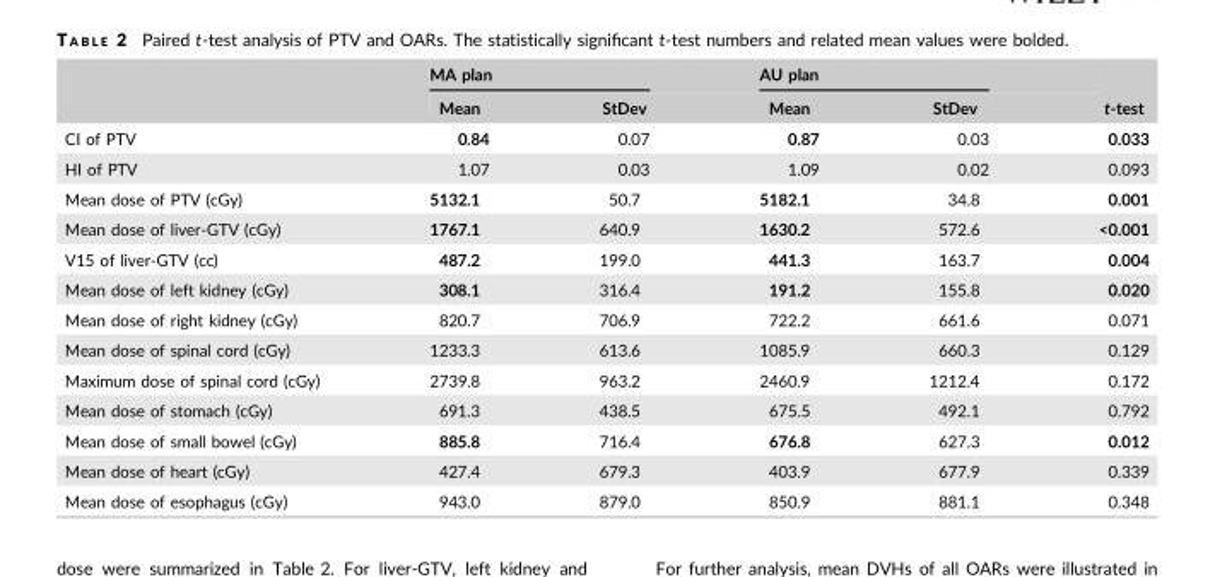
<table><thead><tr><td rowspan="2"></td><td colspan="2">MA plan</td><td colspan="2">AU plan</td><td rowspan="2">t-test</td></tr><tr><td>Mean</td><td>StDev</td><td>Mean</td><td>StDev</td></tr></thead><tbody><tr><td>CI of PTV</td><td>0.84</td><td>0.07</td><td>0.87</td><td>0.03</td><td>0.033</td></tr><tr><td>HI of PTV</td><td>1.07</td><td>0.03</td><td>1.09</td><td>0.02</td><td>0.093</td></tr><tr><td>Mean dose of PTV (cGy)</td><td>5132.1</td><td>50.7</td><td>5182.1</td><td>34.8</td><td>0.001</td></tr><tr><td>Mean dose of liver-GTV (cGy)</td><td>1767.1</td><td>640.9</td><td>1630.2</td><td>572.6</td><td>&lt;0.001</td></tr><tr><td>V15 of liver-GTV (cc)</td><td>487.2</td><td>199.0</td><td>441.3</td><td>163.7</td><td>0.004</td></tr><tr><td>Mean dose of left kidney (cGy)</td><td>308.1</td><td>316.4</td><td>191.2</td><td>155.8</td><td>0.020</td></tr><tr><td>Mean dose of right kidney (cGy)</td><td>820.7</td><td>706.9</td><td>722.2</td><td>661.6</td><td>0.071</td></tr><tr><td>Mean dose of spinal cord (cGy)</td><td>1233.3</td><td>613.6</td><td>1085.9</td><td>660.3</td><td>0.129</td></tr><tr><td>Maximum dose of spinal cord (cGy)</td><td>2739.8</td><td>963.2</td><td>2460.9</td><td>1212.4</td><td>0.172</td></tr><tr><td>Mean dose of stomach (cGy)</td><td>691.3</td><td>438.5</td><td>675.5</td><td>492.1</td><td>0.792</td></tr><tr><td>Mean dose of small bowel (cGy)</td><td>885.8</td><td>716.4</td><td>676.8</td><td>627.3</td><td>0.012</td></tr><tr><td>Mean dose of heart (cGy)</td><td>427.4</td><td>679.3</td><td>403.9</td><td>677.9</td><td>0.339</td></tr><tr><td>Mean dose of esophagus (cGy)</td><td>943.0</td><td>879.0</td><td>850.9</td><td>881.1</td><td>0.348</td></tr></tbody></table>